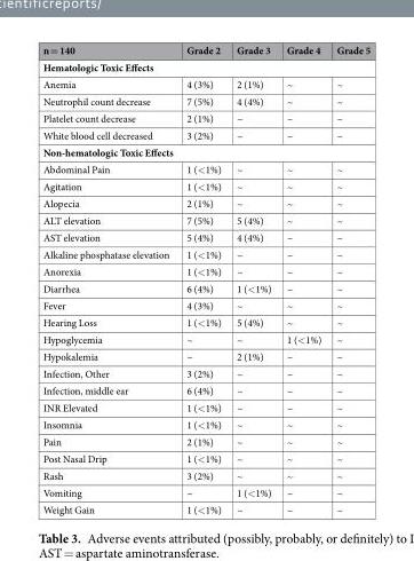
<table><thead><tr><td>n = 140</td><td>Grade 2</td><td>Grade 3</td><td>Grade 4</td><td>Grade 5</td></tr></thead><tbody><tr><td colspan="5">Hematologic Toxic Effects</td></tr><tr><td>Anemia</td><td>4 (3%)</td><td>2 (1%)</td><td>~</td><td>~</td></tr><tr><td>Neutrophil count decrease</td><td>7 (5%)</td><td>4 (4%)</td><td>~</td><td>~</td></tr><tr><td>Platelet count decrease</td><td>2 (1%)</td><td>~</td><td>~</td><td>~</td></tr><tr><td>White blood cell decreased</td><td>3 (2%)</td><td>~</td><td>~</td><td>~</td></tr><tr><td colspan="5">Non-hematologic Toxic Effects</td></tr><tr><td>Abdominal Pain</td><td>1 (&lt;1%)</td><td>~</td><td>~</td><td>~</td></tr><tr><td>Agitation</td><td>1 (&lt;1%)</td><td>~</td><td>~</td><td>~</td></tr><tr><td>Alopecia</td><td>2 (1%)</td><td>~</td><td>~</td><td>~</td></tr><tr><td>ALT elevation</td><td>7 (5%)</td><td>5 (4%)</td><td>~</td><td>~</td></tr><tr><td>AST elevation</td><td>5 (4%)</td><td>4 (4%)</td><td>~</td><td>~</td></tr><tr><td>Alkaline phosphatase elevation</td><td>1 (&lt;1%)</td><td>~</td><td>~</td><td>~</td></tr><tr><td>Anorexia</td><td>1 (&lt;1%)</td><td>~</td><td>~</td><td>~</td></tr><tr><td>Diarrhea</td><td>6 (4%)</td><td>1 (&lt;1%)</td><td>~</td><td>~</td></tr><tr><td>Fever</td><td>4 (3%)</td><td>~</td><td>~</td><td>~</td></tr><tr><td>Hearing Loss</td><td>1 (&lt;1%)</td><td>5 (4%)</td><td>~</td><td>~</td></tr><tr><td>Hypoglycemia</td><td>~</td><td>~</td><td>1 (&lt;1%)</td><td>~</td></tr><tr><td>Hypokalemia</td><td>~</td><td>2 (1%)</td><td>~</td><td>~</td></tr><tr><td>Infection, Other</td><td>3 (2%)</td><td>~</td><td>~</td><td>~</td></tr><tr><td>Infection, middle ear</td><td>6 (4%)</td><td>~</td><td>~</td><td>~</td></tr><tr><td>INR Elevated</td><td>1 (&lt;1%)</td><td>~</td><td>~</td><td>~</td></tr><tr><td>Insomnia</td><td>1 (&lt;1%)</td><td>~</td><td>~</td><td>~</td></tr><tr><td>Pain</td><td>2 (1%)</td><td>~</td><td>~</td><td>~</td></tr><tr><td>Post Nasal Drip</td><td>1 (&lt;1%)</td><td>~</td><td>~</td><td>~</td></tr><tr><td>Rash</td><td>3 (2%)</td><td>~</td><td>~</td><td>~</td></tr><tr><td>Vomiting</td><td>~</td><td>1 (&lt;1%)</td><td>~</td><td>~</td></tr><tr><td>Weight Gain</td><td>1 (&lt;1%)</td><td>~</td><td>~</td><td>~</td></tr></tbody></table>